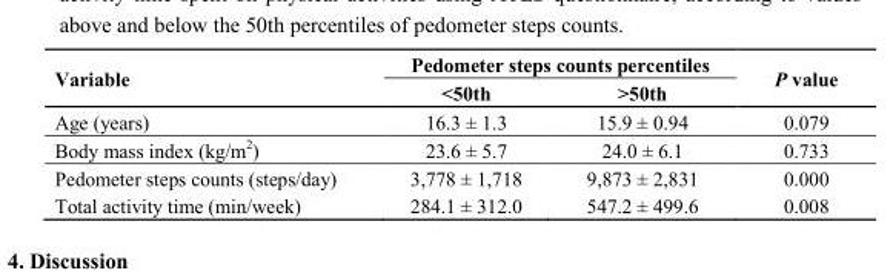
<table><thead><tr><td rowspan="2">Variable</td><td colspan="2">Pedometer steps counts percentiles</td><td rowspan="2">P value</td></tr><tr><td>&lt;50th</td><td>&gt;50th</td></tr></thead><tbody><tr><td>Age (years)</td><td>16.3 ± 1.3</td><td>15.9 ± 0.94</td><td>0.079</td></tr><tr><td>Body mass index (kg/m<sup>2</sup>)</td><td>23.6 ± 5.7</td><td>24.0 ± 6.1</td><td>0.733</td></tr><tr><td>Pedometer steps counts (steps/day)</td><td>3,778 ± 1,718</td><td>9,873 ± 2,831</td><td>0.000</td></tr><tr><td>Total activity time (min/week)</td><td>284.1 ± 312.0</td><td>547.2 ± 499.6</td><td>0.008</td></tr></tbody></table>